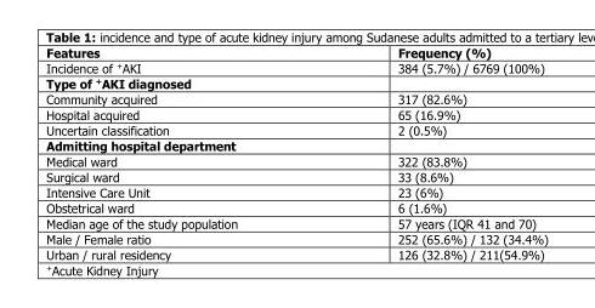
<table><thead><tr><td>Features</td><td>Frequency (%)</td></tr></thead><tbody><tr><td>Incidence of <sup>+</sup>AKI</td><td>384 (5.7%) / 6769 (100%)</td></tr><tr><td colspan="2">Type of <sup>+</sup>AKI diagnosed</td></tr><tr><td>Community acquired</td><td>317 (82.6%)</td></tr><tr><td>Hospital acquired</td><td>65 (16.9%)</td></tr><tr><td>Uncertain classification</td><td>2 (0.5%)</td></tr><tr><td colspan="2">Admitting hospital department</td></tr><tr><td>Medical ward</td><td>322 (83.8%)</td></tr><tr><td>Surgical ward</td><td>33 (8.6%)</td></tr><tr><td>Intensive Care Unit</td><td>23 (6%)</td></tr><tr><td>Obstetrical ward</td><td>6 (1.6%)</td></tr><tr><td>Median age of the study population</td><td>57 years (IQR 41 and 70)</td></tr><tr><td>Male / Female ratio</td><td>252 (65.6%) / 132 (34.4%)</td></tr><tr><td>Urban / rural residency</td><td>126 (32.8%) / 211(54.9%)</td></tr></tbody></table>